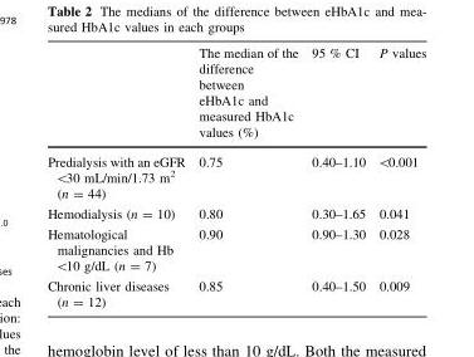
<table><thead><tr><td></td><td>The median of the difference between eHbA1c and measured HbA1c values (%)</td><td>95 % CI</td><td>P values</td></tr></thead><tbody><tr><td>Predialysis with an eGFR &lt;30 mL/min/1.73 m<sup>2</sup> (n = 44)</td><td>0.75</td><td>0.40–1.10</td><td>&lt;0.001</td></tr><tr><td>Hemodialysis (n = 10)</td><td>0.80</td><td>0.30–1.65</td><td>0.041</td></tr><tr><td>Hematological malignancies and Hb &lt;10 g/dL (n = 7)</td><td>0.90</td><td>0.90–1.30</td><td>0.028</td></tr><tr><td>Chronic liver diseases (n = 12)</td><td>0.85</td><td>0.40–1.50</td><td>0.009</td></tr></tbody></table>